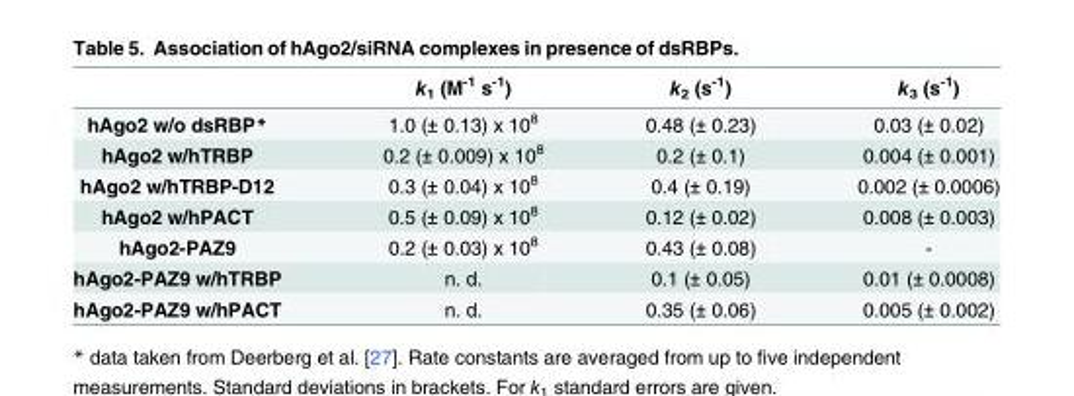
<table><thead><tr><td></td><td>k<sub>1</sub> (M<sup>-1</sup> s<sup>-1</sup>)</td><td>k<sub>2</sub> (s<sup>-1</sup>)</td><td>k<sub>3</sub> (s<sup>-1</sup>)</td></tr></thead><tbody><tr><td>hAgo2 w/o dsRBP*</td><td>1.0 (± 0.13) x 10<sup>8</sup></td><td>0.48 (± 0.23)</td><td>0.03 (± 0.02)</td></tr><tr><td>hAgo2 w/hTRBP</td><td>0.2 (± 0.009) x 10<sup>8</sup></td><td>0.2 (± 0.1)</td><td>0.004 (± 0.001)</td></tr><tr><td>hAgo2 w/hTRBP-D12</td><td>0.3 (± 0.04) x 10<sup>8</sup></td><td>0.4 (± 0.19)</td><td>0.002 (± 0.0006)</td></tr><tr><td>hAgo2 w/hPACT</td><td>0.5 (± 0.09) x 10<sup>8</sup></td><td>0.12 (± 0.02)</td><td>0.008 (± 0.003)</td></tr><tr><td>hAgo2-PAZ9</td><td>0.2 (± 0.03) x 10<sup>8</sup></td><td>0.43 (± 0.08)</td><td>-</td></tr><tr><td>hAgo2-PAZ9 w/hTRBP</td><td>n. d.</td><td>0.1 (± 0.05)</td><td>0.01 (± 0.0008)</td></tr><tr><td>hAgo2-PAZ9 w/hPACT</td><td>n. d.</td><td>0.35 (± 0.06)</td><td>0.005 (± 0.002)</td></tr></tbody></table>